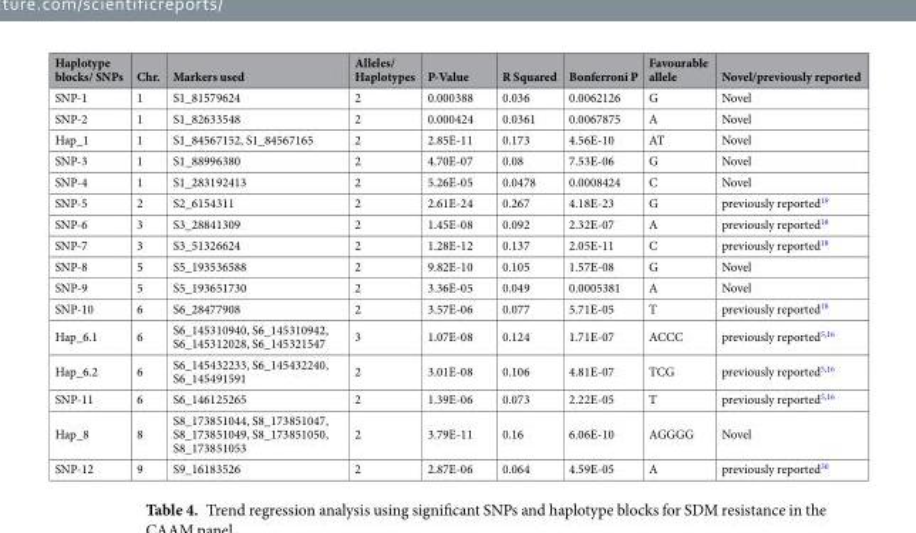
<table><thead><tr><td>Haplotype blocks/ SNPs</td><td>Chr.</td><td>Markers used</td><td>Alleles/ Haplotypes</td><td>P-Value</td><td>R Squared</td><td>Bonferroni P</td><td>Favourable allele</td><td>Novel/previously reported</td></tr></thead><tbody><tr><td>SNP-1</td><td>1</td><td>S1_81579624</td><td>2</td><td>0.000388</td><td>0.036</td><td>0.0062126</td><td>G</td><td>Novel</td></tr><tr><td>SNP-2</td><td>1</td><td>S1_82633548</td><td>2</td><td>0.000424</td><td>0.0361</td><td>0.0067875</td><td>A</td><td>Novel</td></tr><tr><td>Hap_1</td><td>1</td><td>S1_84567152, S1_84567165</td><td>2</td><td>2.85E-11</td><td>0.173</td><td>4.56E-10</td><td>AT</td><td>Novel</td></tr><tr><td>SNP-3</td><td>1</td><td>S1_88996380</td><td>2</td><td>4.70E-07</td><td>0.08</td><td>7.53E-06</td><td>G</td><td>Novel</td></tr><tr><td>SNP-4</td><td>1</td><td>S1_283192413</td><td>2</td><td>5.26E-05</td><td>0.0478</td><td>0.0008424</td><td>C</td><td>Novel</td></tr><tr><td>SNP-5</td><td>2</td><td>S2_6154311</td><td>2</td><td>2.61E-24</td><td>0.267</td><td>4.18E-23</td><td>G</td><td>previously reported<sup>19</sup></td></tr><tr><td>SNP-6</td><td>3</td><td>S3_28841309</td><td>2</td><td>1.45E-08</td><td>0.092</td><td>2.32E-07</td><td>A</td><td>previously reported<sup>18</sup></td></tr><tr><td>SNP-7</td><td>3</td><td>S3_51326624</td><td>2</td><td>1.28E-12</td><td>0.137</td><td>2.05E-11</td><td>C</td><td>previously reported<sup>18</sup></td></tr><tr><td>SNP-8</td><td>5</td><td>S5_193536588</td><td>2</td><td>9.82E-10</td><td>0.105</td><td>1.57E-08</td><td>G</td><td>Novel</td></tr><tr><td>SNP-9</td><td>5</td><td>S5_193651730</td><td>2</td><td>3.36E-05</td><td>0.049</td><td>0.0005381</td><td>A</td><td>Novel</td></tr><tr><td>SNP-10</td><td>6</td><td>S6_28477908</td><td>2</td><td>3.57E-06</td><td>0.077</td><td>5.71E-05</td><td>T</td><td>previously reported<sup>18</sup></td></tr><tr><td>Hap_6.1</td><td>6</td><td>S6_145310940, S6_145310942, S6_145312028, S6_145321547</td><td>3</td><td>1.07E-08</td><td>0.124</td><td>1.71E-07</td><td>ACCC</td><td>previously reported<sup>5,16</sup></td></tr><tr><td>Hap_6.2</td><td>6</td><td>S6_145432233, S6_145432240, S6_145491591</td><td>2</td><td>3.01E-08</td><td>0.106</td><td>4.81E-07</td><td>TCG</td><td>previously reported<sup>5,16</sup></td></tr><tr><td>SNP-11</td><td>6</td><td>S6_146125265</td><td>2</td><td>1.39E-06</td><td>0.073</td><td>2.22E-05</td><td>T</td><td>previously reported<sup>5,16</sup></td></tr><tr><td>Hap_8</td><td>8</td><td>S8_173851044, S8_173851047, S8_173851049, S8_173851050, S8_173851053</td><td>2</td><td>3.79E-11</td><td>0.16</td><td>6.06E-10</td><td>AGGGG</td><td>Novel</td></tr><tr><td>SNP-12</td><td>9</td><td>S9_16183526</td><td>2</td><td>2.87E-06</td><td>0.064</td><td>4.59E-05</td><td>A</td><td>previously reported<sup>30</sup></td></tr></tbody></table>